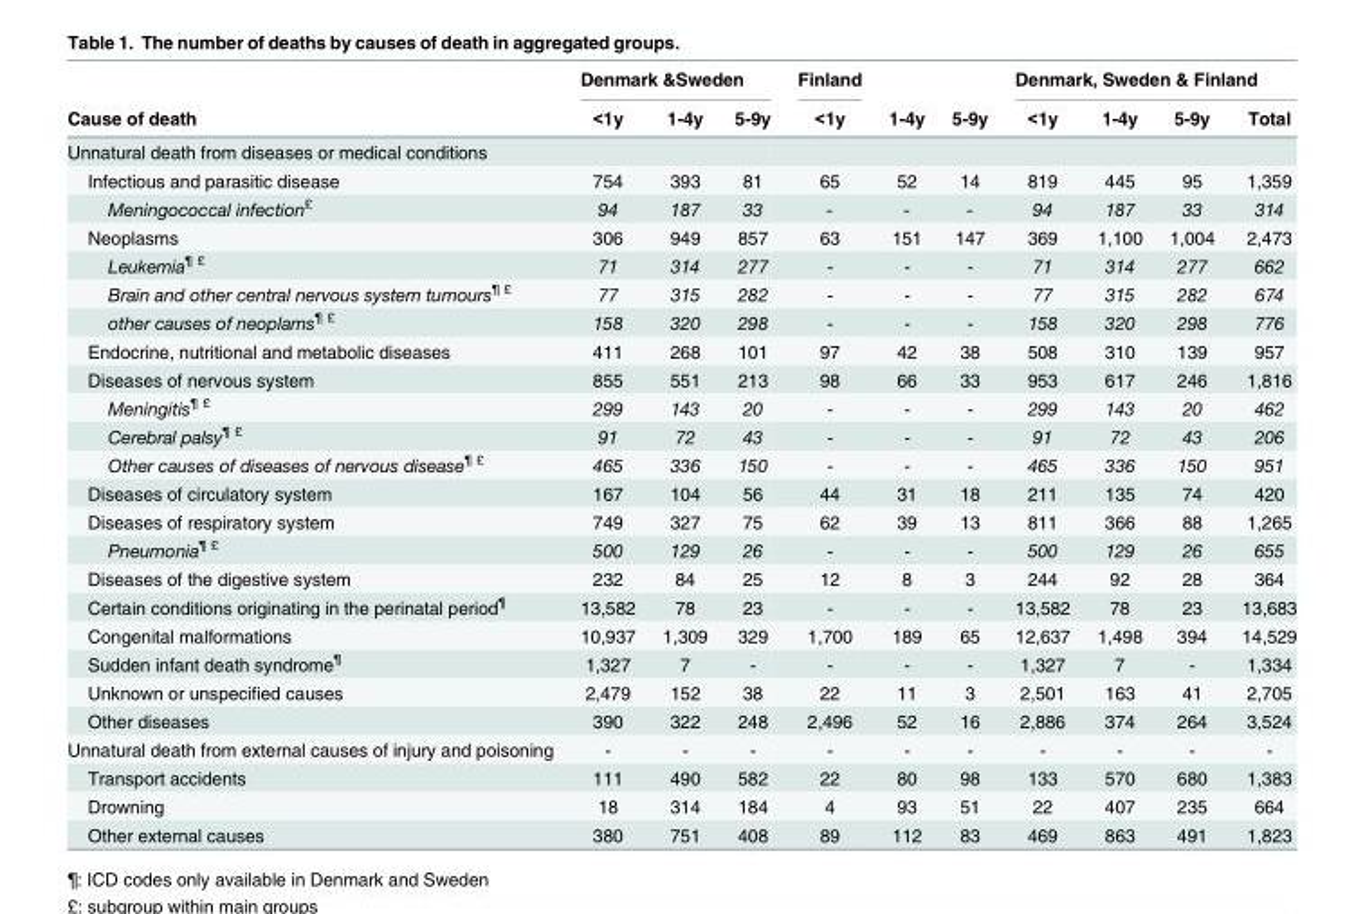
<table><thead><tr><td rowspan="2">Cause of death</td><td colspan="3">Denmark &amp;Sweden</td><td rowspan="2">Finland &lt;1y</td><td rowspan="2">1-4y</td><td rowspan="2">5-9y</td><td colspan="4">Denmark, Sweden &amp; Finland</td></tr><tr><td>&lt;1y</td><td>1-4y</td><td>5-9y</td><td>&lt;1y</td><td>1-4y</td><td>5-9y</td><td>Total</td></tr></thead><tbody><tr><td colspan="11">Unnatural death from diseases or medical conditions</td></tr><tr><td>Infectious and parasitic disease</td><td>754</td><td>393</td><td>81</td><td>65</td><td>52</td><td>14</td><td>819</td><td>445</td><td>95</td><td>1,359</td></tr><tr><td>Meningococcal infection<sup>£</sup></td><td>94</td><td>187</td><td>33</td><td>-</td><td>-</td><td>-</td><td>94</td><td>187</td><td>33</td><td>314</td></tr><tr><td>Neoplasms</td><td>306</td><td>949</td><td>857</td><td>63</td><td>151</td><td>147</td><td>369</td><td>1,100</td><td>1,004</td><td>2,473</td></tr><tr><td>Leukemia<sup>¶ £</sup></td><td>71</td><td>314</td><td>277</td><td>-</td><td>-</td><td>-</td><td>71</td><td>314</td><td>277</td><td>662</td></tr><tr><td>Brain and other central nervous system tumours<sup>¶ £</sup></td><td>77</td><td>315</td><td>282</td><td>-</td><td>-</td><td>-</td><td>77</td><td>315</td><td>282</td><td>674</td></tr><tr><td>other causes of neoplams<sup>¶ £</sup></td><td>158</td><td>320</td><td>298</td><td>-</td><td>-</td><td>-</td><td>158</td><td>320</td><td>298</td><td>776</td></tr><tr><td>Endocrine, nutritional and metabolic diseases</td><td>411</td><td>268</td><td>101</td><td>97</td><td>42</td><td>38</td><td>508</td><td>310</td><td>139</td><td>957</td></tr><tr><td>Diseases of nervous system</td><td>855</td><td>551</td><td>213</td><td>98</td><td>66</td><td>33</td><td>953</td><td>617</td><td>246</td><td>1,816</td></tr><tr><td>Meningitis<sup>¶ £</sup></td><td>299</td><td>143</td><td>20</td><td>-</td><td>-</td><td>-</td><td>299</td><td>143</td><td>20</td><td>462</td></tr><tr><td>Cerebral palsy<sup>¶ £</sup></td><td>91</td><td>72</td><td>43</td><td>-</td><td>-</td><td>-</td><td>91</td><td>72</td><td>43</td><td>206</td></tr><tr><td>Other causes of diseases of nervous disease<sup>¶ £</sup></td><td>465</td><td>336</td><td>150</td><td>-</td><td>-</td><td>-</td><td>465</td><td>336</td><td>150</td><td>951</td></tr><tr><td>Diseases of circulatory system</td><td>167</td><td>104</td><td>56</td><td>44</td><td>31</td><td>18</td><td>211</td><td>135</td><td>74</td><td>420</td></tr><tr><td>Diseases of respiratory system</td><td>749</td><td>327</td><td>75</td><td>62</td><td>39</td><td>13</td><td>811</td><td>366</td><td>88</td><td>1,265</td></tr><tr><td>Pneumonia<sup>¶ £</sup></td><td>500</td><td>129</td><td>26</td><td>-</td><td>-</td><td>-</td><td>500</td><td>129</td><td>26</td><td>655</td></tr><tr><td>Diseases of the digestive system</td><td>232</td><td>84</td><td>25</td><td>12</td><td>8</td><td>3</td><td>244</td><td>92</td><td>28</td><td>364</td></tr><tr><td>Certain conditions originating in the perinatal period<sup>¶</sup></td><td>13,582</td><td>78</td><td>23</td><td>-</td><td>-</td><td>-</td><td>13,582</td><td>78</td><td>23</td><td>13,683</td></tr><tr><td>Congenital malformations</td><td>10,937</td><td>1,309</td><td>329</td><td>1,700</td><td>189</td><td>65</td><td>12,637</td><td>1,498</td><td>394</td><td>14,529</td></tr><tr><td>Sudden infant death syndrome<sup>¶</sup></td><td>1,327</td><td>7</td><td>-</td><td>-</td><td>-</td><td>-</td><td>1,327</td><td>7</td><td>-</td><td>1,334</td></tr><tr><td>Unknown or unspecified causes</td><td>2,479</td><td>152</td><td>38</td><td>22</td><td>11</td><td>3</td><td>2,501</td><td>163</td><td>41</td><td>2,705</td></tr><tr><td>Other diseases</td><td>390</td><td>322</td><td>248</td><td>2,496</td><td>52</td><td>16</td><td>2,886</td><td>374</td><td>264</td><td>3,524</td></tr><tr><td>Unnatural death from external causes of injury and poisoning</td><td>-</td><td>-</td><td>-</td><td>-</td><td>-</td><td>-</td><td>-</td><td>-</td><td>-</td><td>-</td></tr><tr><td>Transport accidents</td><td>111</td><td>490</td><td>582</td><td>22</td><td>80</td><td>98</td><td>133</td><td>570</td><td>680</td><td>1,383</td></tr><tr><td>Drowning</td><td>18</td><td>314</td><td>184</td><td>4</td><td>93</td><td>51</td><td>22</td><td>407</td><td>235</td><td>664</td></tr><tr><td>Other external causes</td><td>380</td><td>751</td><td>408</td><td>89</td><td>112</td><td>83</td><td>469</td><td>863</td><td>491</td><td>1,823</td></tr></tbody></table>